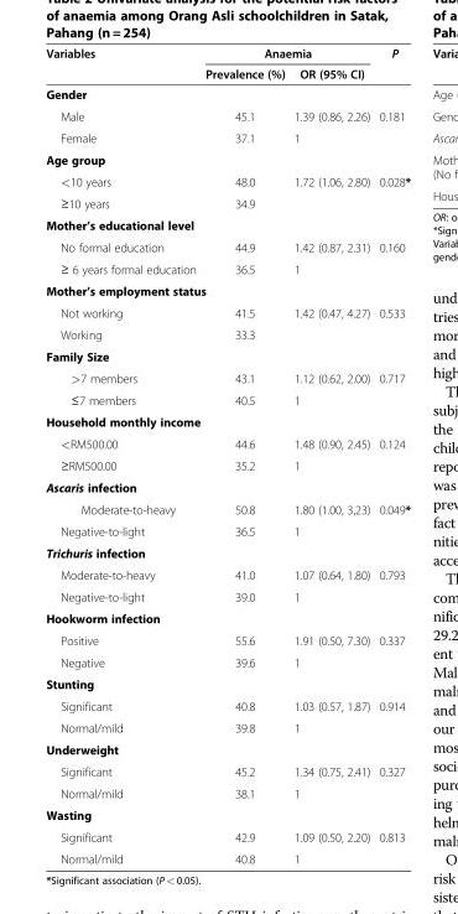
<table><thead><tr><td rowspan="2">Variables</td><td colspan="2">Anaemia</td><td rowspan="2">P</td></tr><tr><td>Prevalence (%)</td><td>OR (95% CI)</td></tr></thead><tbody><tr><td colspan="4">Gender</td></tr><tr><td>Male</td><td>45.1</td><td>1.39 (0.86, 2.26)</td><td>0.181</td></tr><tr><td>Female</td><td>37.1</td><td>1</td><td></td></tr><tr><td colspan="4">Age group</td></tr><tr><td>&lt;10 years</td><td>48.0</td><td>1.72 (1.06, 2.80)</td><td>0.028*</td></tr><tr><td>≥10 years</td><td>34.9</td><td></td><td></td></tr><tr><td colspan="4">Mother’s educational level</td></tr><tr><td>No formal education</td><td>44.9</td><td>1.42 (0.87, 2.31)</td><td>0.160</td></tr><tr><td>≥ 6 years formal education</td><td>36.5</td><td>1</td><td></td></tr><tr><td colspan="4">Mother’s employment status</td></tr><tr><td>Not working</td><td>41.5</td><td>1.42 (0.47, 4.27)</td><td>0.533</td></tr><tr><td>Working</td><td>33.3</td><td></td><td></td></tr><tr><td colspan="4">Family Size</td></tr><tr><td>&gt;7 members</td><td>43.1</td><td>1.12 (0.62, 2.00)</td><td>0.717</td></tr><tr><td>≤7 members</td><td>40.5</td><td>1</td><td></td></tr><tr><td colspan="4">Household monthly income</td></tr><tr><td>&lt;RM500.00</td><td>44.6</td><td>1.48 (0.90, 2.45)</td><td>0.124</td></tr><tr><td>≥RM500.00</td><td>35.2</td><td>1</td><td></td></tr><tr><td colspan="4">Ascaris infection</td></tr><tr><td>Moderate-to-heavy</td><td>50.8</td><td>1.80 (1.00, 3,23)</td><td>0.049*</td></tr><tr><td>Negative-to-light</td><td>36.5</td><td>1</td><td></td></tr><tr><td colspan="4">Trichuris infection</td></tr><tr><td>Moderate-to-heavy</td><td>41.0</td><td>1.07 (0.64, 1.80)</td><td>0.793</td></tr><tr><td>Negative-to-light</td><td>39.0</td><td>1</td><td></td></tr><tr><td colspan="4">Hookworm infection</td></tr><tr><td>Positive</td><td>55.6</td><td>1.91 (0.50, 7.30)</td><td>0.337</td></tr><tr><td>Negative</td><td>39.6</td><td>1</td><td></td></tr><tr><td colspan="4">Stunting</td></tr><tr><td>Significant</td><td>40.8</td><td>1.03 (0.57, 1.87)</td><td>0.914</td></tr><tr><td>Normal/mild</td><td>39.8</td><td>1</td><td></td></tr><tr><td colspan="4">Underweight</td></tr><tr><td>Significant</td><td>45.2</td><td>1.34 (0.75, 2.41)</td><td>0.327</td></tr><tr><td>Normal/mild</td><td>38.1</td><td>1</td><td></td></tr><tr><td colspan="4">Wasting</td></tr><tr><td>Significant</td><td>42.9</td><td>1.09 (0.50, 2.20)</td><td>0.813</td></tr><tr><td>Normal/mild</td><td>40.8</td><td>1</td><td></td></tr></tbody></table>